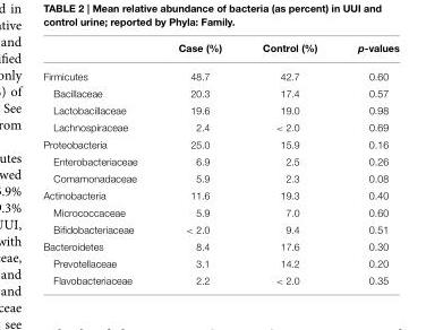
<table><thead><tr><td></td><td>Case (%)</td><td>Control (%)</td><td>p-values</td></tr></thead><tbody><tr><td>Firmicutes</td><td>48.7</td><td>42.7</td><td>0.60</td></tr><tr><td>Bacillaceae</td><td>20.3</td><td>17.4</td><td>0.57</td></tr><tr><td>Lactobacillaceae</td><td>19.6</td><td>19.0</td><td>0.98</td></tr><tr><td>Lachnospiraceae</td><td>2.4</td><td>&lt; 2.0</td><td>0.69</td></tr><tr><td>Proteobacteria</td><td>25.0</td><td>15.9</td><td>0.16</td></tr><tr><td>Enterobacteriaceae</td><td>6.9</td><td>2.5</td><td>0.26</td></tr><tr><td>Comamonadaceae</td><td>5.9</td><td>2.3</td><td>0.08</td></tr><tr><td>Actinobacteria</td><td>11.6</td><td>19.3</td><td>0.40</td></tr><tr><td>Micrococcaceae</td><td>5.9</td><td>7.0</td><td>0.60</td></tr><tr><td>Bifidobacteriaceae</td><td>&lt; 2.0</td><td>9.4</td><td>0.51</td></tr><tr><td>Bacteroidetes</td><td>8.4</td><td>17.6</td><td>0.30</td></tr><tr><td>Prevotellaceae</td><td>3.1</td><td>14.2</td><td>0.20</td></tr><tr><td>Flavobacteriaceae</td><td>2.2</td><td>&lt; 2.0</td><td>0.35</td></tr></tbody></table>